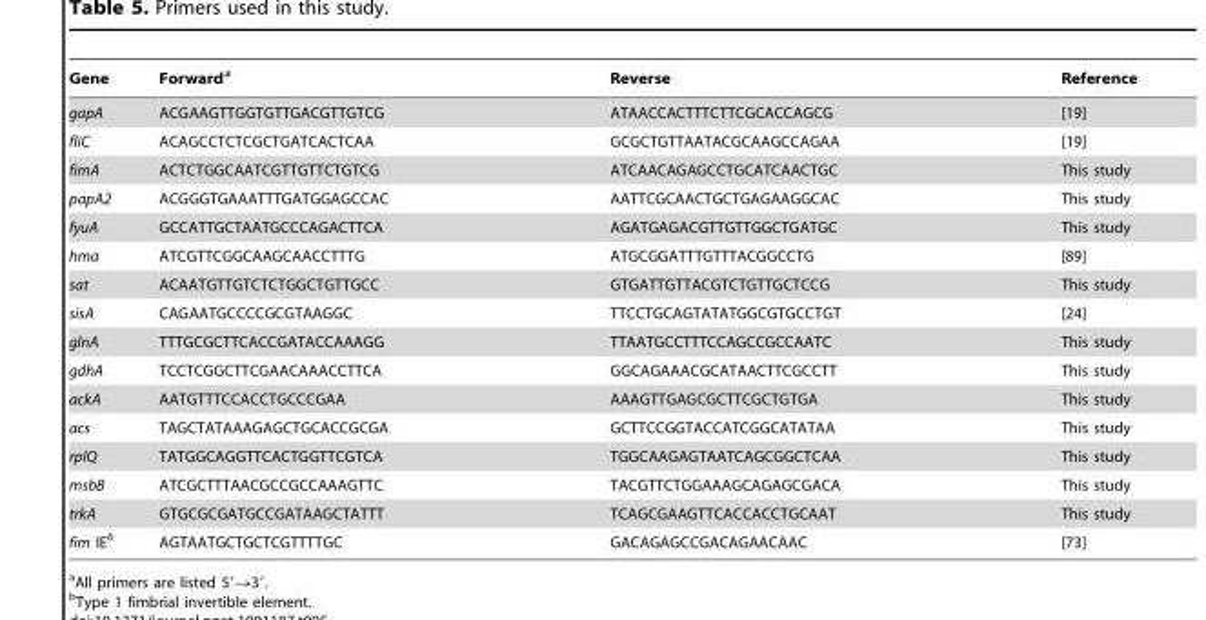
<table><thead><tr><td>Gene</td><td>Forward<sup>a</sup></td><td>Reverse</td><td>Reference</td></tr></thead><tbody><tr><td>gapA</td><td>ACGAAGTTGGTGTTGACGTTGTCG</td><td>ATAACCACTTTCTTCGCACCAGCG</td><td>[19]</td></tr><tr><td>fliC</td><td>ACAGCCTCTCGCTGATCACTCAA</td><td>GCGCTGTTAATACGCAAGCCAGAA</td><td>[19]</td></tr><tr><td>fimA</td><td>ACTCTGGCAATCGTTGTTCTGTCG</td><td>ATCAACAGAGCCTGCATCAACTGC</td><td>This study</td></tr><tr><td>papA2</td><td>ACGGGTGAAATTTGATGGAGCCAC</td><td>AATTCGCAACTGCTGAGAAGGCAC</td><td>This study</td></tr><tr><td>fyuA</td><td>GCCATTGCTAATGCCCAGACTTCA</td><td>AGATGAGACGTTGTTGGCTGATGC</td><td>This study</td></tr><tr><td>hma</td><td>ATCGTTCGGCAAGCAACCTTTG</td><td>ATGCGGATTTGTTTACGGCCTG</td><td>[89]</td></tr><tr><td>sat</td><td>ACAATGTTGTCTCTGGCTGTTGCC</td><td>GTGATTGTTACGTCTGTTGCTCCG</td><td>This study</td></tr><tr><td>sisA</td><td>CAGAATGCCCCGCGTAAGGC</td><td>TTCCTGCAGTATATGGCGTGCCTGT</td><td>[24]</td></tr><tr><td>glnA</td><td>TTTGCGCTTCACCGATACCAAAGG</td><td>TTAATGCCTTTCCAGCCGCCAATC</td><td>This study</td></tr><tr><td>gdhA</td><td>TCCTCGGCTTCGAACAAACCTTCA</td><td>GGCAGAAACGCATAACTTCGCCTT</td><td>This study</td></tr><tr><td>ackA</td><td>AATGTTTCCACCTGCCCGAA</td><td>AAAGTTGAGCGCTTCGCTGTGA</td><td>This study</td></tr><tr><td>acs</td><td>TAGCTATAAAGAGCTGCACCGCGA</td><td>GCTTCCGGTACCATCGGCATATAA</td><td>This study</td></tr><tr><td>rplQ</td><td>TATGGCAGGTTCACTGGTTCGTCA</td><td>TGGCAAGAGTAATCAGCGGCTCAA</td><td>This study</td></tr><tr><td>msbB</td><td>ATCGCTTTAACGCCGCCAAAGTTC</td><td>TACGTTCTGGAAAGCAGAGCGACA</td><td>This study</td></tr><tr><td>trkA</td><td>GTGCGCGATGCCGATAAGCTATTT</td><td>TCAGCGAAGTTCACCACCTGCAAT</td><td>This study</td></tr><tr><td>fim IE<sup>b</sup></td><td>AGTAATGCTGCTCGTTTTGC</td><td>GACAGAGCCGACAGAACAAC</td><td>[73]</td></tr></tbody></table>